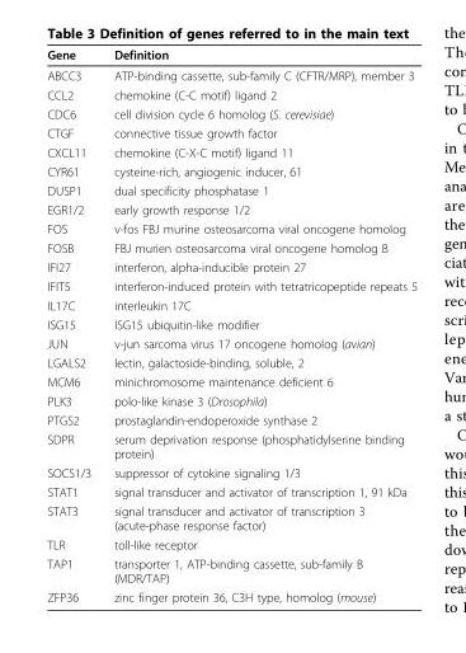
<table><thead><tr><td>Gene</td><td>Definition</td></tr></thead><tbody><tr><td>ABCC3</td><td>ATP-binding cassette, sub-family C (CFTR/MRP), member 3</td></tr><tr><td>CCL2</td><td>chemokine (C-C motif) ligand 2</td></tr><tr><td>CDC6</td><td>cell division cycle 6 homolog (S. cerevisiae)</td></tr><tr><td>CTGF</td><td>connective tissue growth factor</td></tr><tr><td>CXCL11</td><td>chemokine (C-X-C motif) ligand 11</td></tr><tr><td>CYR61</td><td>cysteine-rich, angiogenic inducer, 61</td></tr><tr><td>DUSP1</td><td>dual specificity phosphatase 1</td></tr><tr><td>EGR1/2</td><td>early growth response 1/2</td></tr><tr><td>FOS</td><td>v-fos FBJ murine osteosarcoma viral oncogene homolog</td></tr><tr><td>FOSB</td><td>FBJ murien osteosarcoma viral oncogene homolog B</td></tr><tr><td>IFI27</td><td>interferon, alpha-inducible protein 27</td></tr><tr><td>IFIT5</td><td>interferon-induced protein with tetratricopeptide repeats 5</td></tr><tr><td>IL17C</td><td>interleukin 17C</td></tr><tr><td>ISG15</td><td>ISG15 ubiquitin-like modifier</td></tr><tr><td>JUN</td><td>v-jun sarcoma virus 17 oncogene homolog (avian)</td></tr><tr><td>LGALS2</td><td>lectin, galactoside-binding, soluble, 2</td></tr><tr><td>MCM6</td><td>minichromosome maintenance deficient 6</td></tr><tr><td>PLK3</td><td>polo-like kinase 3 (Drosophila)</td></tr><tr><td>PTGS2</td><td>prostaglandin-endoperoxide synthase 2</td></tr><tr><td>SDPR</td><td>serum deprivation response (phosphatidylserine binding protein)</td></tr><tr><td>SOCS1/3</td><td>suppressor of cytokine signaling 1/3</td></tr><tr><td>STAT1</td><td>signal transducer and activator of transcription 1, 91 kDa</td></tr><tr><td>STAT3</td><td>signal transducer and activator of transcription 3 (acute-phase response factor)</td></tr><tr><td>TLR</td><td>toll-like receptor</td></tr><tr><td>TAP1</td><td>transporter 1, ATP-binding cassette, sub-family B (MDR/TAP)</td></tr><tr><td>ZFP36</td><td>zinc finger protein 36, C3H type, homolog (mouse)</td></tr></tbody></table>